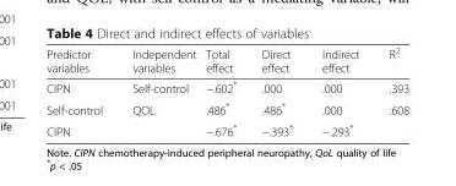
<table><thead><tr><td>Predictor variables</td><td>Independent variables</td><td>Total effect</td><td>Direct effect</td><td>Indirect effect</td><td>R<sup>2</sup></td></tr></thead><tbody><tr><td>CIPN</td><td>Self-control</td><td>−.602*</td><td>.000</td><td>.000</td><td>.393</td></tr><tr><td>Self-control</td><td rowspan="2">QOL</td><td>.486*</td><td>.486*</td><td>.000</td><td rowspan="2">.608</td></tr><tr><td>CIPN</td><td>−.676*</td><td>−.393*</td><td>−.293*</td></tr></tbody></table>